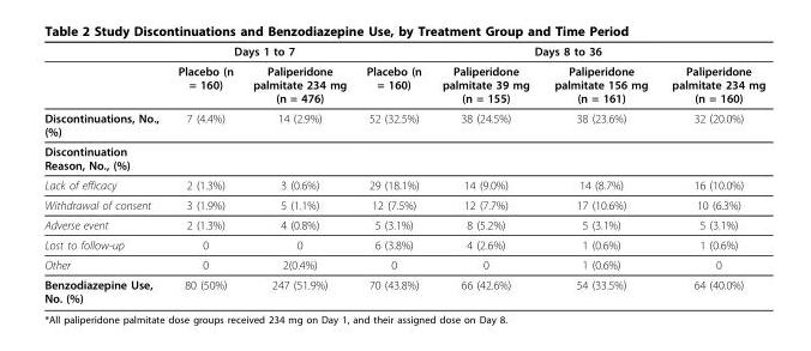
<table><thead><tr><td rowspan="2"></td><td colspan="2">Days 1 to 7</td><td colspan="4">Days 8 to 36</td></tr><tr><td>Placebo (n = 160)</td><td>Paliperidone palmitate 234 mg (n = 476)</td><td>Placebo (n = 160)</td><td>Paliperidone palmitate 39 mg (n = 155)</td><td>Paliperidone palmitate 156 mg (n = 161)</td><td>Paliperidone palmitate 234 mg (n = 160)</td></tr></thead><tbody><tr><td>Discontinuations, No., (%)</td><td>7 (4.4%)</td><td>14 (2.9%)</td><td>52 (32.5%)</td><td>38 (24.5%)</td><td>38 (23.6%)</td><td>32 (20.0%)</td></tr><tr><td colspan="7">Discontinuation Reason, No., (%)</td></tr><tr><td>Lack of efficacy</td><td>2 (1.3%)</td><td>3 (0.6%)</td><td>29 (18.1%)</td><td>14 (9.0%)</td><td>14 (8.7%)</td><td>16 (10.0%)</td></tr><tr><td>Withdrawal of consent</td><td>3 (1.9%)</td><td>5 (1.1%)</td><td>12 (7.5%)</td><td>12 (7.7%)</td><td>17 (10.6%)</td><td>10 (6.3%)</td></tr><tr><td>Adverse event</td><td>2 (1.3%)</td><td>4 (0.8%)</td><td>5 (3.1%)</td><td>8 (5.2%)</td><td>5 (3.1%)</td><td>5 (3.1%)</td></tr><tr><td>Lost to follow-up</td><td>0</td><td>0</td><td>6 (3.8%)</td><td>4 (2.6%)</td><td>1 (0.6%)</td><td>1 (0.6%)</td></tr><tr><td>Other</td><td>0</td><td>2(0.4%)</td><td>0</td><td>0</td><td>1 (0.6%)</td><td>0</td></tr><tr><td>Benzodiazepine Use, No. (%)</td><td>80 (50%)</td><td>247 (51.9%)</td><td>70 (43.8%)</td><td>66 (42.6%)</td><td>54 (33.5%)</td><td>64 (40.0%)</td></tr></tbody></table>